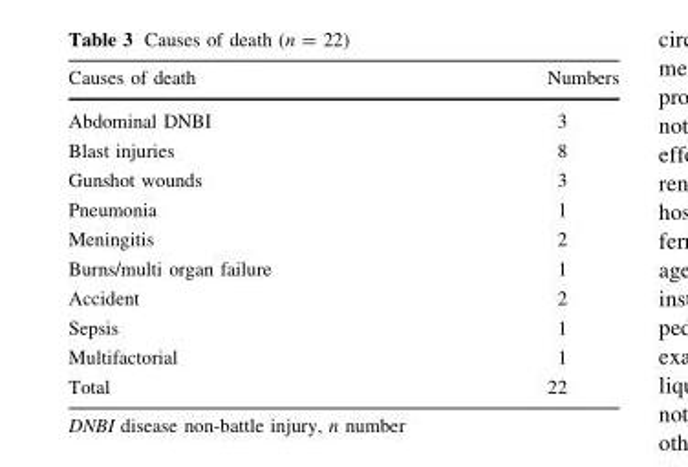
<table><thead><tr><td>Causes of death</td><td>Numbers</td></tr></thead><tbody><tr><td>Abdominal DNBI</td><td>3</td></tr><tr><td>Blast injuries</td><td>8</td></tr><tr><td>Gunshot wounds</td><td>3</td></tr><tr><td>Pneumonia</td><td>1</td></tr><tr><td>Meningitis</td><td>2</td></tr><tr><td>Burns/multi organ failure</td><td>1</td></tr><tr><td>Accident</td><td>2</td></tr><tr><td>Sepsis</td><td>1</td></tr><tr><td>Multifactorial</td><td>1</td></tr><tr><td>Total</td><td>22</td></tr></tbody></table>